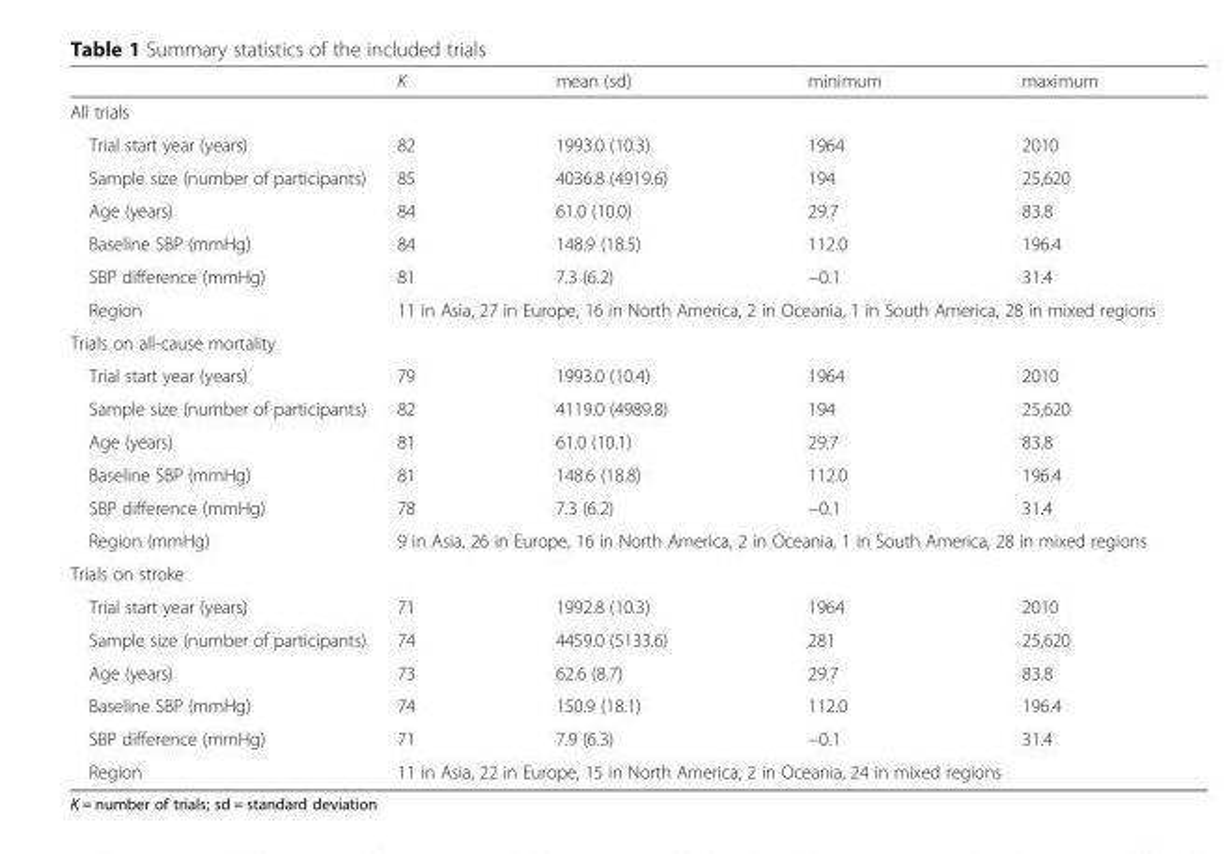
<table><thead><tr><td></td><td>K</td><td>mean (sd)</td><td>minimum</td><td>maximum</td></tr></thead><tbody><tr><td colspan="5">All trials</td></tr><tr><td>Trial start year (years)</td><td>82</td><td>1993.0 (10.3)</td><td>1964</td><td>2010</td></tr><tr><td>Sample size (number of participants)</td><td>85</td><td>4036.8 (4919.6)</td><td>194</td><td>25,620</td></tr><tr><td>Age (years)</td><td>84</td><td>61.0 (10.0)</td><td>29.7</td><td>83.8</td></tr><tr><td>Baseline SBP (mmHg)</td><td>84</td><td>148.9 (18.5)</td><td>112.0</td><td>196.4</td></tr><tr><td>SBP difference (mmHg)</td><td>81</td><td>7.3 (6.2)</td><td>−0.1</td><td>31.4</td></tr><tr><td>Region</td><td colspan="4">11 in Asia, 27 in Europe, 16 in North America, 2 in Oceania, 1 in South America, 28 in mixed regions</td></tr><tr><td colspan="5">Trials on all-cause mortality</td></tr><tr><td>Trial start year (years)</td><td>79</td><td>1993.0 (10.4)</td><td>1964</td><td>2010</td></tr><tr><td>Sample size (number of participants)</td><td>82</td><td>4119.0 (4989.8)</td><td>194</td><td>25,620</td></tr><tr><td>Age (years)</td><td>81</td><td>61.0 (10.1)</td><td>29.7</td><td>83.8</td></tr><tr><td>Baseline SBP (mmHg)</td><td>81</td><td>148.6 (18.8)</td><td>112.0</td><td>196.4</td></tr><tr><td>SBP difference (mmHg)</td><td>78</td><td>7.3 (6.2)</td><td>−0.1</td><td>31.4</td></tr><tr><td>Region (mmHg)</td><td colspan="4">9 in Asia, 26 in Europe, 16 in North America, 2 in Oceania, 1 in South America, 28 in mixed regions</td></tr><tr><td colspan="5">Trials on stroke</td></tr><tr><td>Trial start year (years)</td><td>71</td><td>1992.8 (10.3)</td><td>1964</td><td>2010</td></tr><tr><td>Sample size (number of participants)</td><td>74</td><td>4459.0 (5133.6)</td><td>281</td><td>25,620</td></tr><tr><td>Age (years)</td><td>73</td><td>62.6 (8.7)</td><td>29.7</td><td>83.8</td></tr><tr><td>Baseline SBP (mmHg)</td><td>74</td><td>150.9 (18.1)</td><td>112.0</td><td>196.4</td></tr><tr><td>SBP difference (mmHg)</td><td>71</td><td>7.9 (6.3)</td><td>−0.1</td><td>31.4</td></tr><tr><td>Region</td><td colspan="4">11 in Asia, 22 in Europe, 15 in North America, 2 in Oceania, 24 in mixed regions</td></tr></tbody></table>